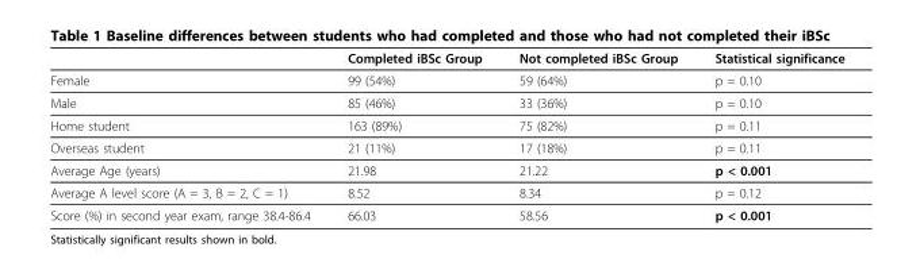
<table><thead><tr><td></td><td>Completed iBSc Group</td><td>Not completed iBSc Group</td><td>Statistical significance</td></tr></thead><tbody><tr><td>Female</td><td>99 (54%)</td><td>59 (64%)</td><td>p = 0.10</td></tr><tr><td>Male</td><td>85 (46%)</td><td>33 (36%)</td><td>p = 0.10</td></tr><tr><td>Home student</td><td>163 (89%)</td><td>75 (82%)</td><td>p = 0.11</td></tr><tr><td>Overseas student</td><td>21 (11%)</td><td>17 (18%)</td><td>p = 0.11</td></tr><tr><td>Average Age (years)</td><td>21.98</td><td>21.22</td><td>p &lt; 0.001</td></tr><tr><td>Average A level score (A = 3, B = 2, C = 1)</td><td>8.52</td><td>8.34</td><td>p = 0.12</td></tr><tr><td>Score (%) in second year exam, range 38.4-86.4</td><td>66.03</td><td>58.56</td><td>p &lt; 0.001</td></tr></tbody></table>